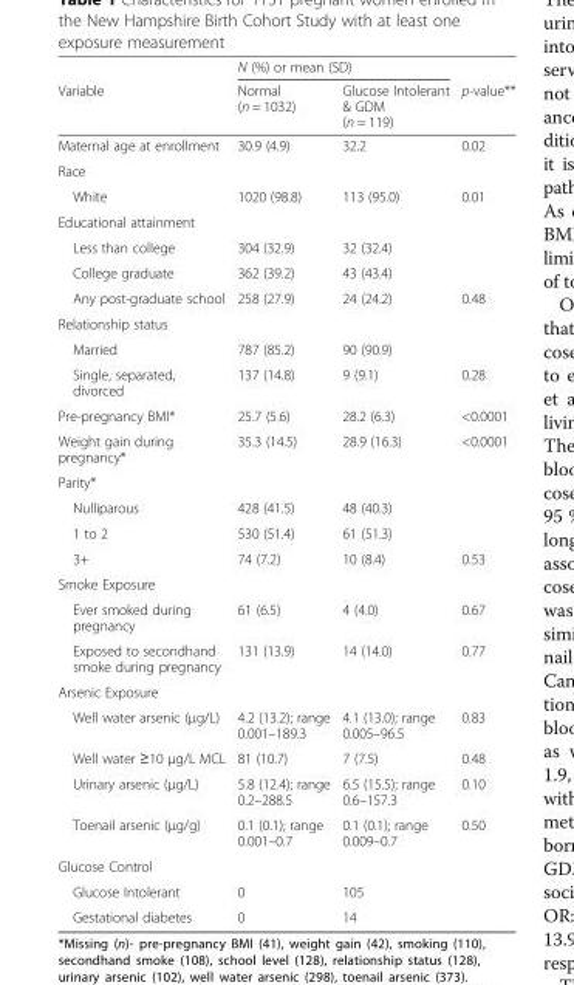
<table><thead><tr><td rowspan="2">Variable</td><td colspan="2">N (%) or mean (SD)</td><td rowspan="2">p-value**</td></tr><tr><td>Normal (n = 1032)</td><td>Glucose Intolerant &amp; GDM (n = 119)</td></tr></thead><tbody><tr><td>Maternal age at enrollment</td><td>30.9 (4.9)</td><td>32.2</td><td>0.02</td></tr><tr><td colspan="4">Race</td></tr><tr><td>White</td><td>1020 (98.8)</td><td>113 (95.0)</td><td>0.01</td></tr><tr><td colspan="4">Educational attainment</td></tr><tr><td>Less than college</td><td>304 (32.9)</td><td>32 (32.4)</td><td></td></tr><tr><td>College graduate</td><td>362 (39.2)</td><td>43 (43.4)</td><td></td></tr><tr><td>Any post-graduate school</td><td>258 (27.9)</td><td>24 (24.2)</td><td>0.48</td></tr><tr><td colspan="4">Relationship status</td></tr><tr><td>Married</td><td>787 (85.2)</td><td>90 (90.9)</td><td></td></tr><tr><td>Single, separated, divorced</td><td>137 (14.8)</td><td>9 (9.1)</td><td>0.28</td></tr><tr><td>Pre-pregnancy BMI*</td><td>25.7 (5.6)</td><td>28.2 (6.3)</td><td>&lt;0.0001</td></tr><tr><td>Weight gain during pregnancy*</td><td>35.3 (14.5)</td><td>28.9 (16.3)</td><td>&lt;0.0001</td></tr><tr><td colspan="4">Parity*</td></tr><tr><td>Nulliparous</td><td>428 (41.5)</td><td>48 (40.3)</td><td></td></tr><tr><td>1 to 2</td><td>530 (51.4)</td><td>61 (51.3)</td><td></td></tr><tr><td>3+</td><td>74 (7.2)</td><td>10 (8.4)</td><td>0.53</td></tr><tr><td colspan="4">Smoke Exposure</td></tr><tr><td>Ever smoked during pregnancy</td><td>61 (6.5)</td><td>4 (4.0)</td><td>0.67</td></tr><tr><td>Exposed to secondhand smoke during pregnancy</td><td>131 (13.9)</td><td>14 (14.0)</td><td>0.77</td></tr><tr><td colspan="4">Arsenic Exposure</td></tr><tr><td>Well water arsenic (μg/L)</td><td>4.2 (13.2); range 0.001–189.3</td><td>4.1 (13.0); range 0.005–96.5</td><td>0.83</td></tr><tr><td>Well water ≥10 μg/L MCL</td><td>81 (10.7)</td><td>7 (7.5)</td><td>0.48</td></tr><tr><td>Urinary arsenic (μg/L)</td><td>5.8 (12.4); range 0.2–288.5</td><td>6.5 (15.5); range 0.6–157.3</td><td>0.10</td></tr><tr><td>Toenail arsenic (μg/g)</td><td>0.1 (0.1); range 0.001–0.7</td><td>0.1 (0.1); range 0.009–0.7</td><td>0.50</td></tr><tr><td colspan="4">Glucose Control</td></tr><tr><td>Glucose Intolerant</td><td>0</td><td>105</td><td></td></tr><tr><td>Gestational diabetes</td><td>0</td><td>14</td><td></td></tr></tbody></table>